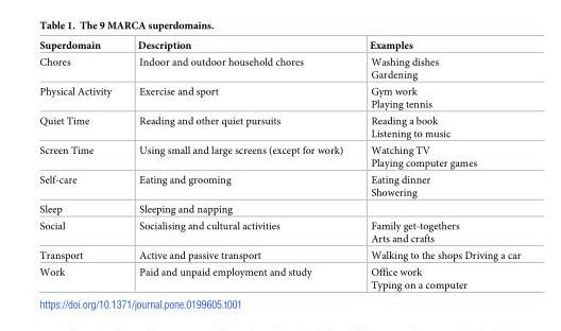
<table><thead><tr><td>Superdomain</td><td>Description</td><td>Examples</td></tr></thead><tbody><tr><td>Chores</td><td>Indoor and outdoor household chores</td><td>Washing dishes Gardening</td></tr><tr><td>Physical Activity</td><td>Exercise and sport</td><td>Gym work Playing tennis</td></tr><tr><td>Quiet Time</td><td>Reading and other quiet pursuits</td><td>Reading a book Listening to music</td></tr><tr><td>Screen Time</td><td>Using small and large screens (except for work)</td><td>Watching TV Playing computer games</td></tr><tr><td>Self-care</td><td>Eating and grooming</td><td>Eating dinner Showering</td></tr><tr><td>Sleep</td><td>Sleeping and napping</td><td></td></tr><tr><td>Social</td><td>Socialising and cultural activities</td><td>Family get-togethers Arts and crafts</td></tr><tr><td>Transport</td><td>Active and passive transport</td><td>Walking to the shops Driving a car</td></tr><tr><td>Work</td><td>Paid and unpaid employment and study</td><td>Office work Typing on a computer</td></tr></tbody></table>